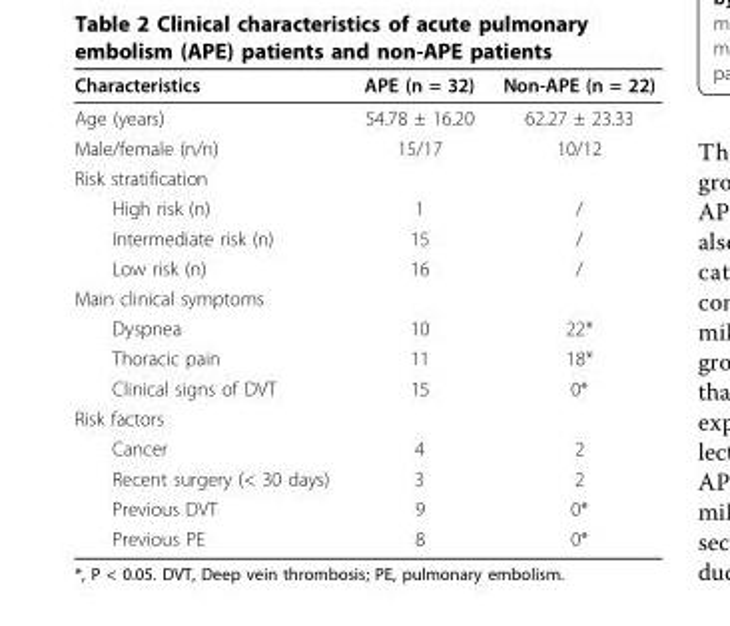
<table><thead><tr><td>Characteristics</td><td>APE (n = 32)</td><td>Non-APE (n = 22)</td></tr></thead><tbody><tr><td>Age (years)</td><td>54.78 ± 16.20</td><td>62.27 ± 23.33</td></tr><tr><td>Male/female (n/n)</td><td>15/17</td><td>10/12</td></tr><tr><td colspan="3">Risk stratification</td></tr><tr><td>High risk (n)</td><td>1</td><td>/</td></tr><tr><td>Intermediate risk (n)</td><td>15</td><td>/</td></tr><tr><td>Low risk (n)</td><td>16</td><td>/</td></tr><tr><td colspan="3">Main clinical symptoms</td></tr><tr><td>Dyspnea</td><td>10</td><td>22*</td></tr><tr><td>Thoracic pain</td><td>11</td><td>18*</td></tr><tr><td>Clinical signs of DVT</td><td>15</td><td>0*</td></tr><tr><td colspan="3">Risk factors</td></tr><tr><td>Cancer</td><td>4</td><td>2</td></tr><tr><td>Recent surgery (&lt; 30 days)</td><td>3</td><td>2</td></tr><tr><td>Previous DVT</td><td>9</td><td>0*</td></tr><tr><td>Previous PE</td><td>8</td><td>0*</td></tr></tbody></table>